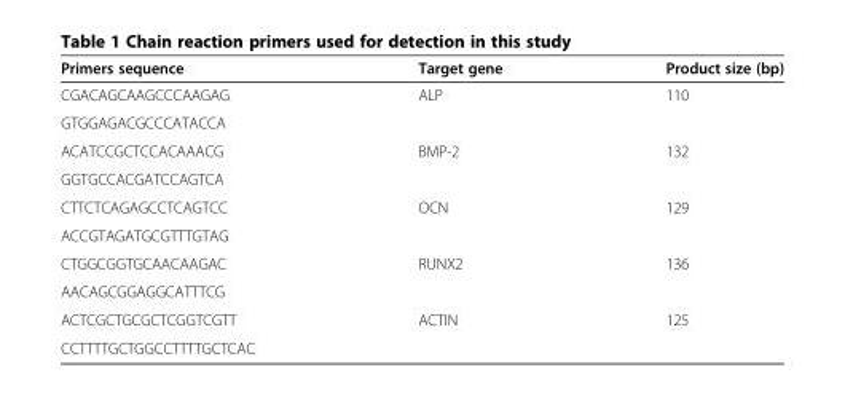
<table><thead><tr><td>Primers sequence</td><td>Target gene</td><td>Product size (bp)</td></tr></thead><tbody><tr><td>CGACAGCAAGCCCAAGAG</td><td rowspan="2">ALP</td><td rowspan="2">110</td></tr><tr><td>GTGGAGACGCCCATACCA</td></tr><tr><td>ACATCCGCTCCACAAACG</td><td rowspan="2">BMP-2</td><td rowspan="2">132</td></tr><tr><td>GGTGCCACGATCCAGTCA</td></tr><tr><td>CTTCTCAGAGCCTCAGTCC</td><td rowspan="2">OCN</td><td rowspan="2">129</td></tr><tr><td>ACCGTAGATGCGTTTGTAG</td></tr><tr><td>CTGGCGGTGCAACAAGAC</td><td rowspan="2">RUNX2</td><td rowspan="2">136</td></tr><tr><td>AACAGCGGAGGCATTTCG</td></tr><tr><td>ACTCGCTGCGCTCGGTCGTT</td><td rowspan="2">ACTIN</td><td rowspan="2">125</td></tr><tr><td>CCTTTTGCTGGCCTTTTGCTCAC</td></tr></tbody></table>